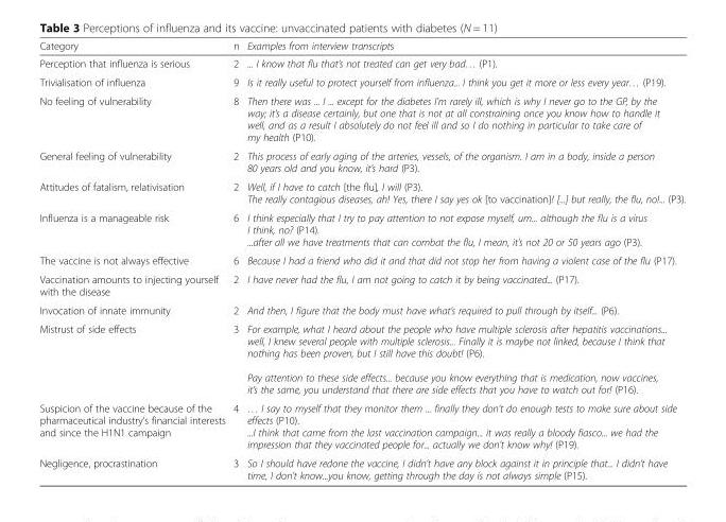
<table><thead><tr><td>Category</td><td>n</td><td>Examples from interview transcripts</td></tr></thead><tbody><tr><td>Perception that influenza is serious</td><td>2</td><td>... I know that flu that’s not treated can get very bad… (P1).</td></tr><tr><td>Trivialisation of influenza</td><td>9</td><td>Is it really useful to protect yourself from influenza... I think you get it more or less every year… (P19).</td></tr><tr><td>No feeling of vulnerability</td><td>8</td><td>Then there was ... I ... except for the diabetes I’m rarely ill, which is why I never go to the GP, by the way; it’s a disease certainly, but one that is not at all constraining once you know how to handle it well, and as a result I absolutely do not feel ill and so I do nothing in particular to take care of my health (P10).</td></tr><tr><td>General feeling of vulnerability</td><td>2</td><td>This process of early aging of the arteries, vessels, of the organism. I am in a body, inside a person 80 years old and you know, it’s hard (P3).</td></tr><tr><td>Attitudes of fatalism, relativisation</td><td>2</td><td>Well, if I have to catch [the flu], I will (P3). The really contagious diseases, ah! Yes, there I say yes ok [to vaccination]! [...] but really, the flu, no!... (P3).</td></tr><tr><td>Influenza is a manageable risk</td><td>6</td><td>I think especially that I try to pay attention to not expose myself, um... although the flu is a virus I think, no? (P14). ...after all we have treatments that can combat the flu, I mean, it’s not 20 or 50 years ago (P3).</td></tr><tr><td>The vaccine is not always effective</td><td>6</td><td>Because I had a friend who did it and that did not stop her from having a violent case of the flu (P17).</td></tr><tr><td>Vaccination amounts to injecting yourself with the disease</td><td>2</td><td>I have never had the flu, I am not going to catch it by being vaccinated... (P17).</td></tr><tr><td>Invocation of innate immunity</td><td>2</td><td>And then, I figure that the body must have what’s required to pull through by itself... (P6).</td></tr><tr><td>Mistrust of side effects</td><td>3</td><td>For example, what I heard about the people who have multiple sclerosis after hepatitis vaccinations... well, I knew several people with multiple sclerosis... Finally it is maybe not linked, because I think that nothing has been proven, but I still have this doubt! (P6). Pay attention to these side effects... because you know everything that is medication, now vaccines, it’s the same, you understand that there are side effects that you have to watch out for! (P16).</td></tr><tr><td>Suspicion of the vaccine because of the pharmaceutical industry’s financial interests and since the H1N1 campaign</td><td>4</td><td>… I say to myself that they monitor them ... finally they don’t do enough tests to make sure about side effects (P10). ...I think that came from the last vaccination campaign... it was really a bloody fiasco... we had the impression that they vaccinated people for... actually we don’t know why! (P19).</td></tr><tr><td>Negligence, procrastination</td><td>3</td><td>So I should have redone the vaccine, I didn’t have any block against it in principle that... I didn’t have time, I don’t know...you know, getting through the day is not always simple (P15).</td></tr></tbody></table>